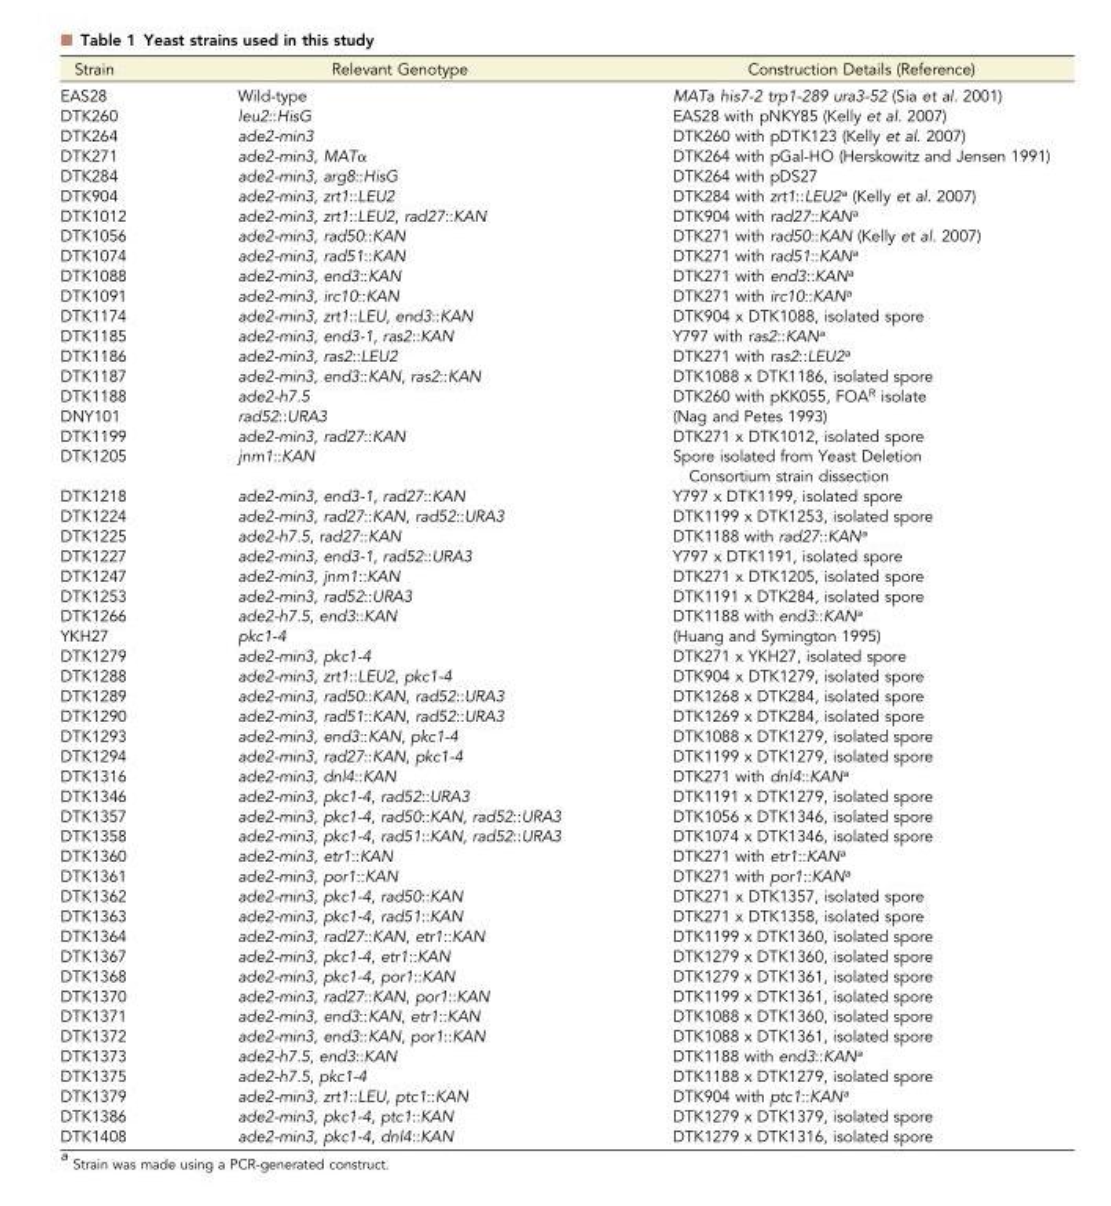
<table><thead><tr><td>Strain</td><td>Relevant Genotype</td><td>Construction Details (Reference)</td></tr></thead><tbody><tr><td>EAS28</td><td>Wild-type</td><td>MATa his7-2 trp1-289 ura3-52 (Sia et al. 2001)</td></tr><tr><td>DTK260</td><td>leu2::HisG</td><td>EAS28 with pNKY85 (Kelly et al. 2007)</td></tr><tr><td>DTK264</td><td>ade2-min3</td><td>DTK260 with pDTK123 (Kelly et al. 2007)</td></tr><tr><td>DTK271</td><td>ade2-min3, MATα</td><td>DTK264 with pGal-HO (Herskowitz and Jensen 1991)</td></tr><tr><td>DTK284</td><td>ade2-min3, arg8::HisG</td><td>DTK264 with pDS27</td></tr><tr><td>DTK904</td><td>ade2-min3, zrt1::LEU2</td><td>DTK284 with zrt1::LEU2<sup>a</sup> (Kelly et al. 2007)</td></tr><tr><td>DTK1012</td><td>ade2-min3, zrt1::LEU2, rad27::KAN</td><td>DTK904 with rad27::KAN<sup>a</sup></td></tr><tr><td>DTK1056</td><td>ade2-min3, rad50::KAN</td><td>DTK271 with rad50::KAN (Kelly et al. 2007)</td></tr><tr><td>DTK1074</td><td>ade2-min3, rad51::KAN</td><td>DTK271 with rad51::KAN<sup>a</sup></td></tr><tr><td>DTK1088</td><td>ade2-min3, end3::KAN</td><td>DTK271 with end3::KAN<sup>a</sup></td></tr><tr><td>DTK1091</td><td>ade2-min3, irc10::KAN</td><td>DTK271 with irc10::KAN<sup>a</sup></td></tr><tr><td>DTK1174</td><td>ade2-min3, zrt1::LEU, end3::KAN</td><td>DTK904 x DTK1088, isolated spore</td></tr><tr><td>DTK1185</td><td>ade2-min3, end3-1, ras2::KAN</td><td>Y797 with ras2::KAN<sup>a</sup></td></tr><tr><td>DTK1186</td><td>ade2-min3, ras2::LEU2</td><td>DTK271 with ras2::LEU2<sup>a</sup></td></tr><tr><td>DTK1187</td><td>ade2-min3, end3::KAN, ras2::KAN</td><td>DTK1088 x DTK1186, isolated spore</td></tr><tr><td>DTK1188</td><td>ade2-h7.5</td><td>DTK260 with pKK055, FOA<sup>R</sup> isolate</td></tr><tr><td>DNY101</td><td>rad52::URA3</td><td>(Nag and Petes 1993)</td></tr><tr><td>DTK1199</td><td>ade2-min3, rad27::KAN</td><td>DTK271 x DTK1012, isolated spore</td></tr><tr><td>DTK1205</td><td>jnm1::KAN</td><td>Spore isolated from Yeast Deletion Consortium strain dissection</td></tr><tr><td>DTK1218</td><td>ade2-min3, end3-1, rad27::KAN</td><td>Y797 x DTK1199, isolated spore</td></tr><tr><td>DTK1224</td><td>ade2-min3, rad27::KAN, rad52::URA3</td><td>DTK1199 x DTK1253, isolated spore</td></tr><tr><td>DTK1225</td><td>ade2-h7.5, rad27::KAN</td><td>DTK1188 with rad27::KAN<sup>a</sup></td></tr><tr><td>DTK1227</td><td>ade2-min3, end3-1, rad52::URA3</td><td>Y797 x DTK1191, isolated spore</td></tr><tr><td>DTK1247</td><td>ade2-min3, jnm1::KAN</td><td>DTK271 x DTK1205, isolated spore</td></tr><tr><td>DTK1253</td><td>ade2-min3, rad52::URA3</td><td>DTK1191 x DTK284, isolated spore</td></tr><tr><td>DTK1266</td><td>ade2-h7.5, end3::KAN</td><td>DTK1188 with end3::KAN<sup>a</sup></td></tr><tr><td>YKH27</td><td>pkc1-4</td><td>(Huang and Symington 1995)</td></tr><tr><td>DTK1279</td><td>ade2-min3, pkc1-4</td><td>DTK271 x YKH27, isolated spore</td></tr><tr><td>DTK1288</td><td>ade2-min3, zrt1::LEU2, pkc1-4</td><td>DTK904 x DTK1279, isolated spore</td></tr><tr><td>DTK1289</td><td>ade2-min3, rad50::KAN, rad52::URA3</td><td>DTK1268 x DTK284, isolated spore</td></tr><tr><td>DTK1290</td><td>ade2-min3, rad51::KAN, rad52::URA3</td><td>DTK1269 x DTK284, isolated spore</td></tr><tr><td>DTK1293</td><td>ade2-min3, end3::KAN, pkc1-4</td><td>DTK1088 x DTK1279, isolated spore</td></tr><tr><td>DTK1294</td><td>ade2-min3, rad27::KAN, pkc1-4</td><td>DTK1199 x DTK1279, isolated spore</td></tr><tr><td>DTK1316</td><td>ade2-min3, dnl4::KAN</td><td>DTK271 with dnl4::KAN<sup>a</sup></td></tr><tr><td>DTK1346</td><td>ade2-min3, pkc1-4, rad52::URA3</td><td>DTK1191 x DTK1279, isolated spore</td></tr><tr><td>DTK1357</td><td>ade2-min3, pkc1-4, rad50::KAN, rad52::URA3</td><td>DTK1056 x DTK1346, isolated spore</td></tr><tr><td>DTK1358</td><td>ade2-min3, pkc1-4, rad51::KAN, rad52::URA3</td><td>DTK1074 x DTK1346, isolated spore</td></tr><tr><td>DTK1360</td><td>ade2-min3, etr1::KAN</td><td>DTK271 with etr1::KAN<sup>a</sup></td></tr><tr><td>DTK1361</td><td>ade2-min3, por1::KAN</td><td>DTK271 with por1::KAN<sup>a</sup></td></tr><tr><td>DTK1362</td><td>ade2-min3, pkc1-4, rad50::KAN</td><td>DTK271 x DTK1357, isolated spore</td></tr><tr><td>DTK1363</td><td>ade2-min3, pkc1-4, rad51::KAN</td><td>DTK271 x DTK1358, isolated spore</td></tr><tr><td>DTK1364</td><td>ade2-min3, rad27::KAN, etr1::KAN</td><td>DTK1199 x DTK1360, isolated spore</td></tr><tr><td>DTK1367</td><td>ade2-min3, pkc1-4, etr1::KAN</td><td>DTK1279 x DTK1360, isolated spore</td></tr><tr><td>DTK1368</td><td>ade2-min3, pkc1-4, por1::KAN</td><td>DTK1279 x DTK1361, isolated spore</td></tr><tr><td>DTK1370</td><td>ade2-min3, rad27::KAN, por1::KAN</td><td>DTK1199 x DTK1361, isolated spore</td></tr><tr><td>DTK1371</td><td>ade2-min3, end3::KAN, etr1::KAN</td><td>DTK1088 x DTK1360, isolated spore</td></tr><tr><td>DTK1372</td><td>ade2-min3, end3::KAN, por1::KAN</td><td>DTK1088 x DTK1361, isolated spore</td></tr><tr><td>DTK1373</td><td>ade2-h7.5, end3::KAN</td><td>DTK1188 with end3::KAN<sup>a</sup></td></tr><tr><td>DTK1375</td><td>ade2-h7.5, pkc1-4</td><td>DTK1188 x DTK1279, isolated spore</td></tr><tr><td>DTK1379</td><td>ade2-min3, zrt1::LEU, ptc1::KAN</td><td>DTK904 with ptc1::KAN<sup>a</sup></td></tr><tr><td>DTK1386</td><td>ade2-min3, pkc1-4, ptc1::KAN</td><td>DTK1279 x DTK1379, isolated spore</td></tr><tr><td>DTK1408</td><td>ade2-min3, pkc1-4, dnl4::KAN</td><td>DTK1279 x DTK1316, isolated spore</td></tr></tbody></table>